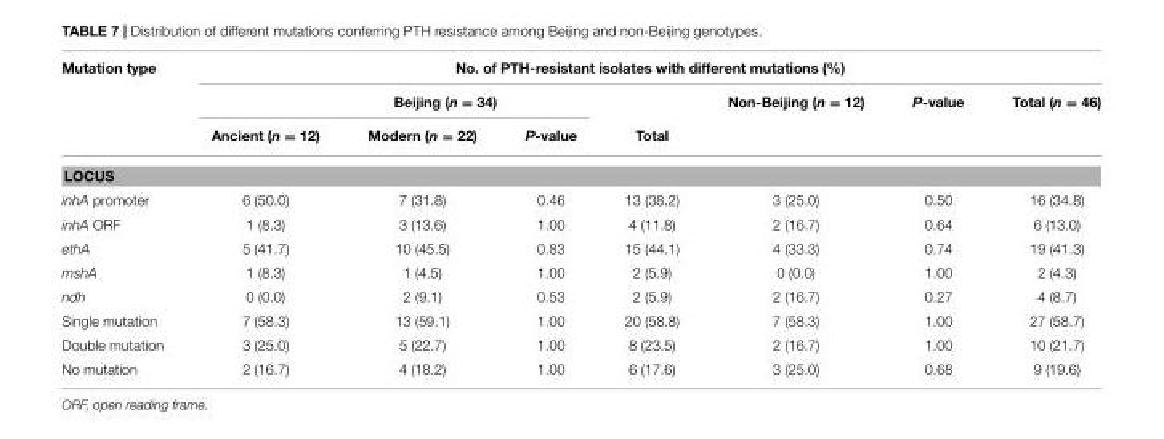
<table><thead><tr><td rowspan="3">Mutation type</td><td colspan="7">No. of PTH-resistant isolates with different mutations (%)</td></tr><tr><td colspan="4">Beijing (n = 34)</td><td rowspan="2">Non-Beijing (n = 12)</td><td rowspan="2">P-value</td><td rowspan="2">Total (n = 46)</td></tr><tr><td>Ancient (n = 12)</td><td>Modern (n = 22)</td><td>P-value</td><td>Total</td></tr></thead><tbody><tr><td colspan="8">LOCUS</td></tr><tr><td>inhA promoter</td><td>6 (50.0)</td><td>7 (31.8)</td><td>0.46</td><td>13 (38.2)</td><td>3 (25.0)</td><td>0.50</td><td>16 (34.8)</td></tr><tr><td>inhA ORF</td><td>1 (8.3)</td><td>3 (13.6)</td><td>1.00</td><td>4 (11.8)</td><td>2 (16.7)</td><td>0.64</td><td>6 (13.0)</td></tr><tr><td>ethA</td><td>5 (41.7)</td><td>10 (45.5)</td><td>0.83</td><td>15 (44.1)</td><td>4 (33.3)</td><td>0.74</td><td>19 (41.3)</td></tr><tr><td>mshA</td><td>1 (8.3)</td><td>1 (4.5)</td><td>1.00</td><td>2 (5.9)</td><td>0 (0.0)</td><td>1.00</td><td>2 (4.3)</td></tr><tr><td>ndh</td><td>0 (0.0)</td><td>2 (9.1)</td><td>0.53</td><td>2 (5.9)</td><td>2 (16.7)</td><td>0.27</td><td>4 (8.7)</td></tr><tr><td>Single mutation</td><td>7 (58.3)</td><td>13 (59.1)</td><td>1.00</td><td>20 (58.8)</td><td>7 (58.3)</td><td>1.00</td><td>27 (58.7)</td></tr><tr><td>Double mutation</td><td>3 (25.0)</td><td>5 (22.7)</td><td>1.00</td><td>8 (23.5)</td><td>2 (16.7)</td><td>1.00</td><td>10 (21.7)</td></tr><tr><td>No mutation</td><td>2 (16.7)</td><td>4 (18.2)</td><td>1.00</td><td>6 (17.6)</td><td>3 (25.0)</td><td>0.68</td><td>9 (19.6)</td></tr></tbody></table>